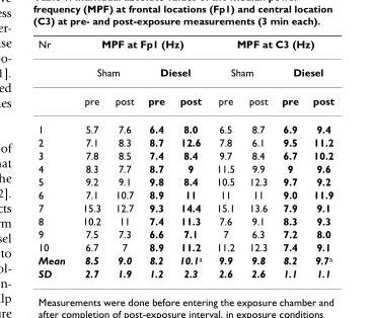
<table><thead><tr><td rowspan="3">Nr</td><td colspan="4">MPF at Fp1 (Hz)</td><td colspan="4">MPF at C3 (Hz)</td></tr><tr><td colspan="2">Sham</td><td colspan="2">Diesel</td><td colspan="2">Sham</td><td colspan="2">Diesel</td></tr><tr><td>pre</td><td>post</td><td>pre</td><td>post</td><td>pre</td><td>post</td><td>pre</td><td>post</td></tr></thead><tbody><tr><td>1</td><td>5.7</td><td>7.6</td><td>6.4</td><td>8.0</td><td>6.5</td><td>8.7</td><td>6.9</td><td>9.4</td></tr><tr><td>2</td><td>7.1</td><td>8.3</td><td>8.7</td><td>12.6</td><td>7.8</td><td>6.1</td><td>9.5</td><td>11.2</td></tr><tr><td>3</td><td>7.8</td><td>8.5</td><td>7.4</td><td>8.4</td><td>9.7</td><td>8.4</td><td>6.7</td><td>10.2</td></tr><tr><td>4</td><td>8.3</td><td>7.7</td><td>8.7</td><td>9</td><td>11.5</td><td>9.9</td><td>9</td><td>9.6</td></tr><tr><td>5</td><td>9.2</td><td>9.1</td><td>9.8</td><td>8.4</td><td>10.5</td><td>12.3</td><td>9.7</td><td>9.2</td></tr><tr><td>6</td><td>7.1</td><td>10.7</td><td>8.9</td><td>11</td><td>11</td><td>11</td><td>9.0</td><td>11.9</td></tr><tr><td>7</td><td>15.3</td><td>12.7</td><td>9.3</td><td>14.4</td><td>15.1</td><td>13.6</td><td>7.9</td><td>9.1</td></tr><tr><td>8</td><td>10.2</td><td>11</td><td>7.4</td><td>11.3</td><td>7.6</td><td>9.1</td><td>8.3</td><td>9.3</td></tr><tr><td>9</td><td>7.5</td><td>7.3</td><td>6.6</td><td>7.1</td><td>7</td><td>6.3</td><td>7.2</td><td>8.0</td></tr><tr><td>10</td><td>6.7</td><td>7</td><td>8.9</td><td>11.2</td><td>11.2</td><td>12.3</td><td>7.4</td><td>9.1</td></tr><tr><td>Mean</td><td>8.5</td><td>9.0</td><td>8.2</td><td>10.1<sup>a</sup></td><td>9.9</td><td>9.8</td><td>8.2</td><td>9.7<sup>a</sup></td></tr><tr><td>SD</td><td>2.7</td><td>1.9</td><td>1.2</td><td>2.3</td><td>2.6</td><td>2.6</td><td>1.1</td><td>1.1</td></tr></tbody></table>